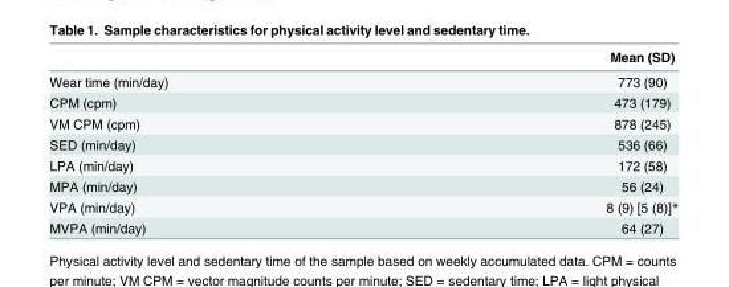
<table><thead><tr><td></td><td>Mean (SD)</td></tr></thead><tbody><tr><td>Wear time (min/day)</td><td>773 (90)</td></tr><tr><td>CPM (cpm)</td><td>473 (179)</td></tr><tr><td>VM CPM (cpm)</td><td>878 (245)</td></tr><tr><td>SED (min/day)</td><td>536 (66)</td></tr><tr><td>LPA (min/day)</td><td>172 (58)</td></tr><tr><td>MPA (min/day)</td><td>56 (24)</td></tr><tr><td>VPA (min/day)</td><td>8 (9) [5 (8)]*</td></tr><tr><td>MVPA (min/day)</td><td>64 (27)</td></tr></tbody></table>